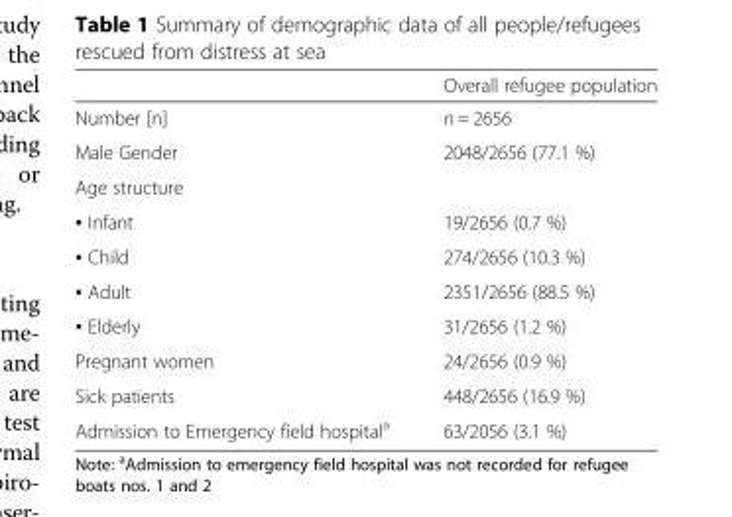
<table><thead><tr><td></td><td>Overall refugee population</td></tr></thead><tbody><tr><td>Number [n]</td><td>n = 2656</td></tr><tr><td>Male Gender</td><td>2048/2656 (77.1 %)</td></tr><tr><td colspan="2">Age structure</td></tr><tr><td>▪ Infant</td><td>19/2656 (0.7 %)</td></tr><tr><td>▪ Child</td><td>274/2656 (10.3 %)</td></tr><tr><td>▪ Adult</td><td>2351/2656 (88.5 %)</td></tr><tr><td>▪ Elderly</td><td>31/2656 (1.2 %)</td></tr><tr><td>Pregnant women</td><td>24/2656 (0.9 %)</td></tr><tr><td>Sick patients</td><td>448/2656 (16.9 %)</td></tr><tr><td>Admission to Emergency field hospital<sup>a</sup></td><td>63/2056 (3.1 %)</td></tr></tbody></table>